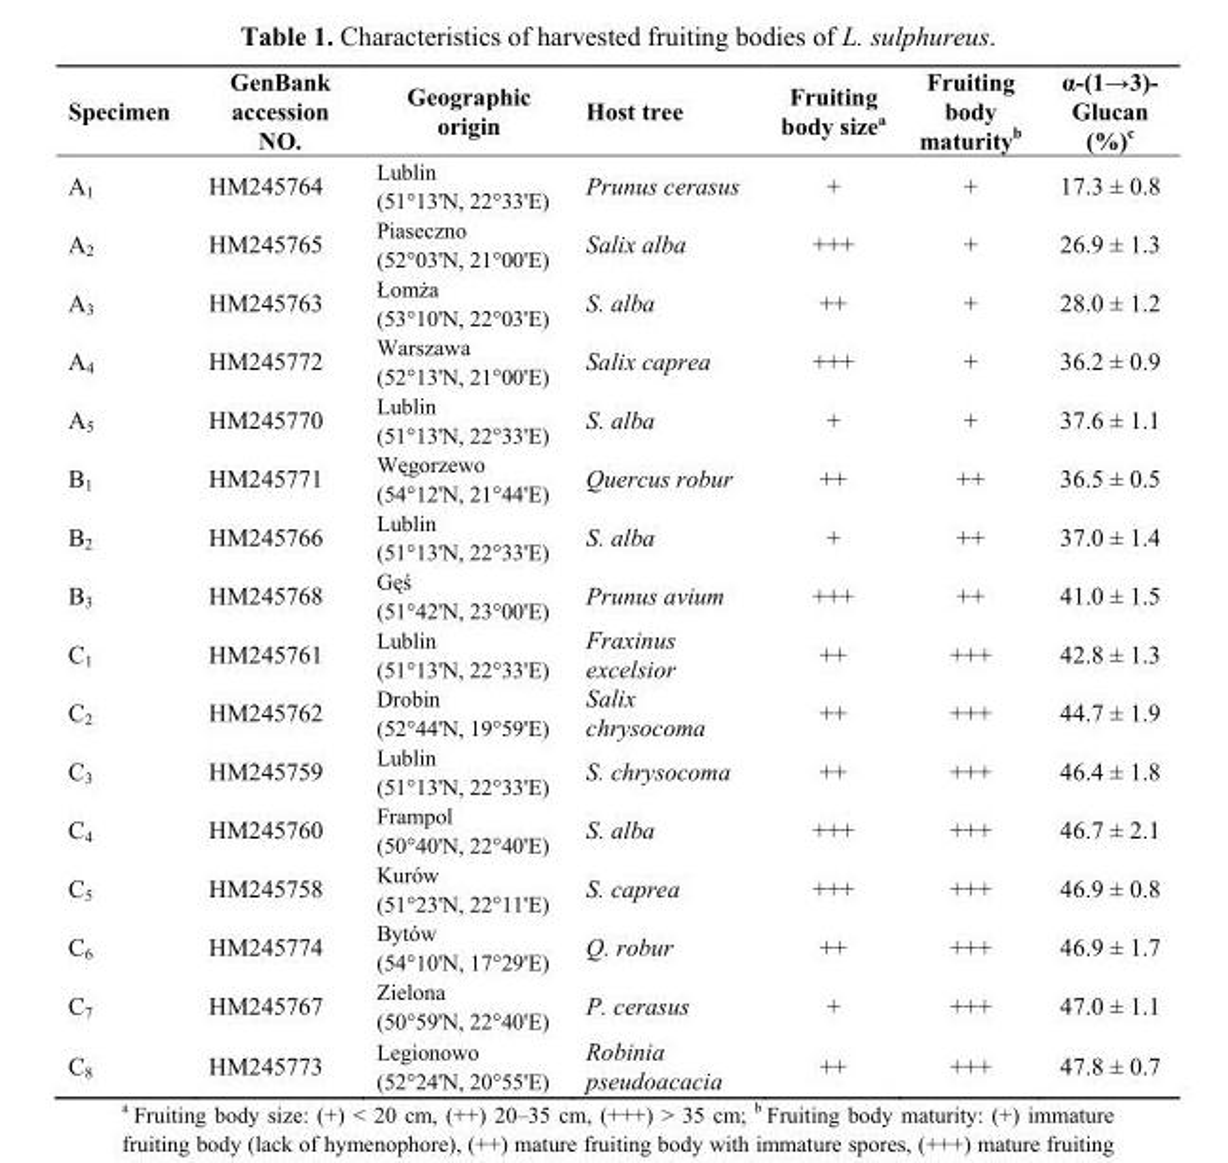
<table><thead><tr><td>Specimen</td><td>GenBank accession NO.</td><td>Geographic origin</td><td>Host tree</td><td>Fruiting body sizeª</td><td>Fruiting body maturity<sup>b</sup></td><td>α-(1→3)- Glucan (%)<sup>c</sup></td></tr></thead><tbody><tr><td>A<sub>1</sub></td><td>HM245764</td><td>Lublin (51°13&#x27;N, 22°33&#x27;E)</td><td>Prunus cerasus</td><td>+</td><td>+</td><td>17.3 ± 0.8</td></tr><tr><td>A<sub>2</sub></td><td>HM245765</td><td>Piaseczno (52°03&#x27;N, 21°00&#x27;E)</td><td>Salix alba</td><td>+++</td><td>+</td><td>26.9 ± 1.3</td></tr><tr><td>A<sub>3</sub></td><td>HM245763</td><td>Łomża (53°10&#x27;N, 22°03&#x27;E)</td><td>S. alba</td><td>++</td><td>+</td><td>28.0 ± 1.2</td></tr><tr><td>A<sub>4</sub></td><td>HM245772</td><td>Warszawa (52°13&#x27;N, 21°00&#x27;E)</td><td>Salix caprea</td><td>+++</td><td>+</td><td>36.2 ± 0.9</td></tr><tr><td>A<sub>5</sub></td><td>HM245770</td><td>Lublin (51°13&#x27;N, 22°33&#x27;E)</td><td>S. alba</td><td>+</td><td>+</td><td>37.6 ± 1.1</td></tr><tr><td>B<sub>1</sub></td><td>HM245771</td><td>Węgorzewo (54°12&#x27;N, 21°44&#x27;E)</td><td>Quercus robur</td><td>++</td><td>++</td><td>36.5 ± 0.5</td></tr><tr><td>B<sub>2</sub></td><td>HM245766</td><td>Lublin (51°13&#x27;N, 22°33&#x27;E)</td><td>S. alba</td><td>+</td><td>++</td><td>37.0 ± 1.4</td></tr><tr><td>B<sub>3</sub></td><td>HM245768</td><td>Gęś (51°42&#x27;N, 23°00&#x27;E)</td><td>Prunus avium</td><td>+++</td><td>++</td><td>41.0 ± 1.5</td></tr><tr><td>C<sub>1</sub></td><td>HM245761</td><td>Lublin (51°13&#x27;N, 22°33&#x27;E)</td><td>Fraxinus excelsior</td><td>++</td><td>+++</td><td>42.8 ± 1.3</td></tr><tr><td>C<sub>2</sub></td><td>HM245762</td><td>Drobin (52°44&#x27;N, 19°59&#x27;E)</td><td>Salix chrysocoma</td><td>++</td><td>+++</td><td>44.7 ± 1.9</td></tr><tr><td>C<sub>3</sub></td><td>HM245759</td><td>Lublin (51°13&#x27;N, 22°33&#x27;E)</td><td>S. chrysocoma</td><td>++</td><td>+++</td><td>46.4 ± 1.8</td></tr><tr><td>C<sub>4</sub></td><td>HM245760</td><td>Frampol (50°40&#x27;N, 22°40&#x27;E)</td><td>S. alba</td><td>+++</td><td>+++</td><td>46.7 ± 2.1</td></tr><tr><td>C<sub>5</sub></td><td>HM245758</td><td>Kurów (51°23&#x27;N, 22°11&#x27;E)</td><td>S. caprea</td><td>+++</td><td>+++</td><td>46.9 ± 0.8</td></tr><tr><td>C<sub>6</sub></td><td>HM245774</td><td>Bytów (54°10&#x27;N, 17°29&#x27;E)</td><td>Q. robur</td><td>++</td><td>+++</td><td>46.9 ± 1.7</td></tr><tr><td>C<sub>7</sub></td><td>HM245767</td><td>Zielona (50°59&#x27;N, 22°40&#x27;E)</td><td>P. cerasus</td><td>+</td><td>+++</td><td>47.0 ± 1.1</td></tr><tr><td>C<sub>8</sub></td><td>HM245773</td><td>Legionowo (52°24&#x27;N, 20°55&#x27;E)</td><td>Robinia pseudoacacia</td><td>++</td><td>+++</td><td>47.8 ± 0.7</td></tr></tbody></table>